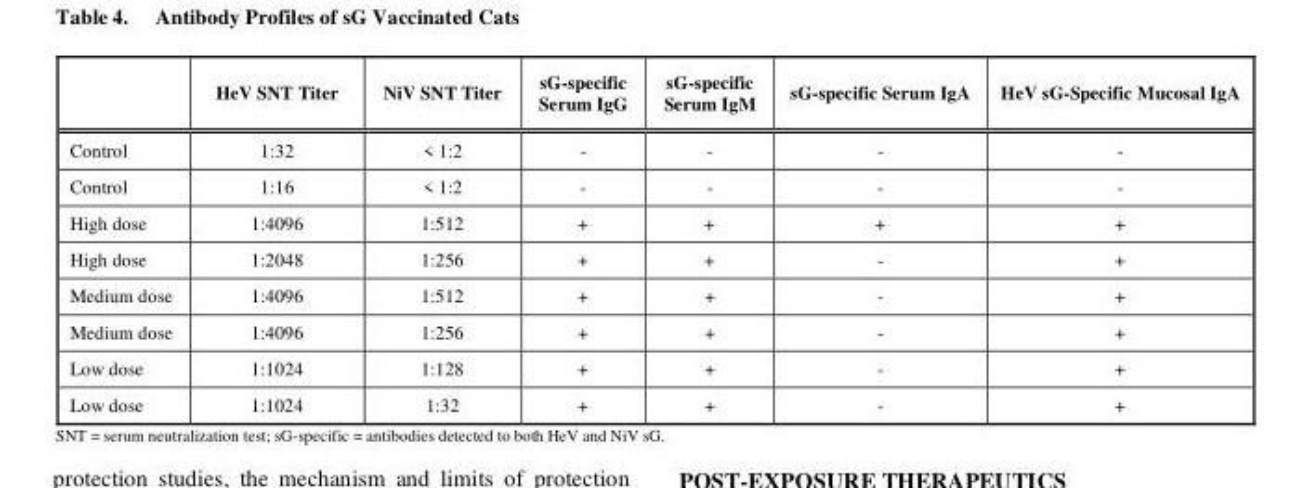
<table><thead><tr><td></td><td>HeV SNT Titer</td><td>NiV SNT Titer</td><td>sG-specific Serum IgG</td><td>sG-specific Serum IgM</td><td>sG-specific Serum IgA</td><td>HeV sG-Specific Mucosal IgA</td></tr></thead><tbody><tr><td>Control</td><td>1:32</td><td>&lt; 1:2</td><td>-</td><td>-</td><td>-</td><td>-</td></tr><tr><td>Control</td><td>1:16</td><td>&lt; 1:2</td><td>-</td><td>-</td><td>-</td><td>-</td></tr><tr><td>High dose</td><td>1:4096</td><td>1:512</td><td>+</td><td>+</td><td>+</td><td>+</td></tr><tr><td>High dose</td><td>1:2048</td><td>1:256</td><td>+</td><td>+</td><td>-</td><td>+</td></tr><tr><td>Medium dose</td><td>1:4096</td><td>1:512</td><td>+</td><td>+</td><td>-</td><td>+</td></tr><tr><td>Medium dose</td><td>1:4096</td><td>1:256</td><td>+</td><td>+</td><td>-</td><td>+</td></tr><tr><td>Low dose</td><td>1:1024</td><td>1:128</td><td>+</td><td>+</td><td>-</td><td>+</td></tr><tr><td>Low dose</td><td>1:1024</td><td>1:32</td><td>+</td><td>+</td><td>-</td><td>+</td></tr></tbody></table>